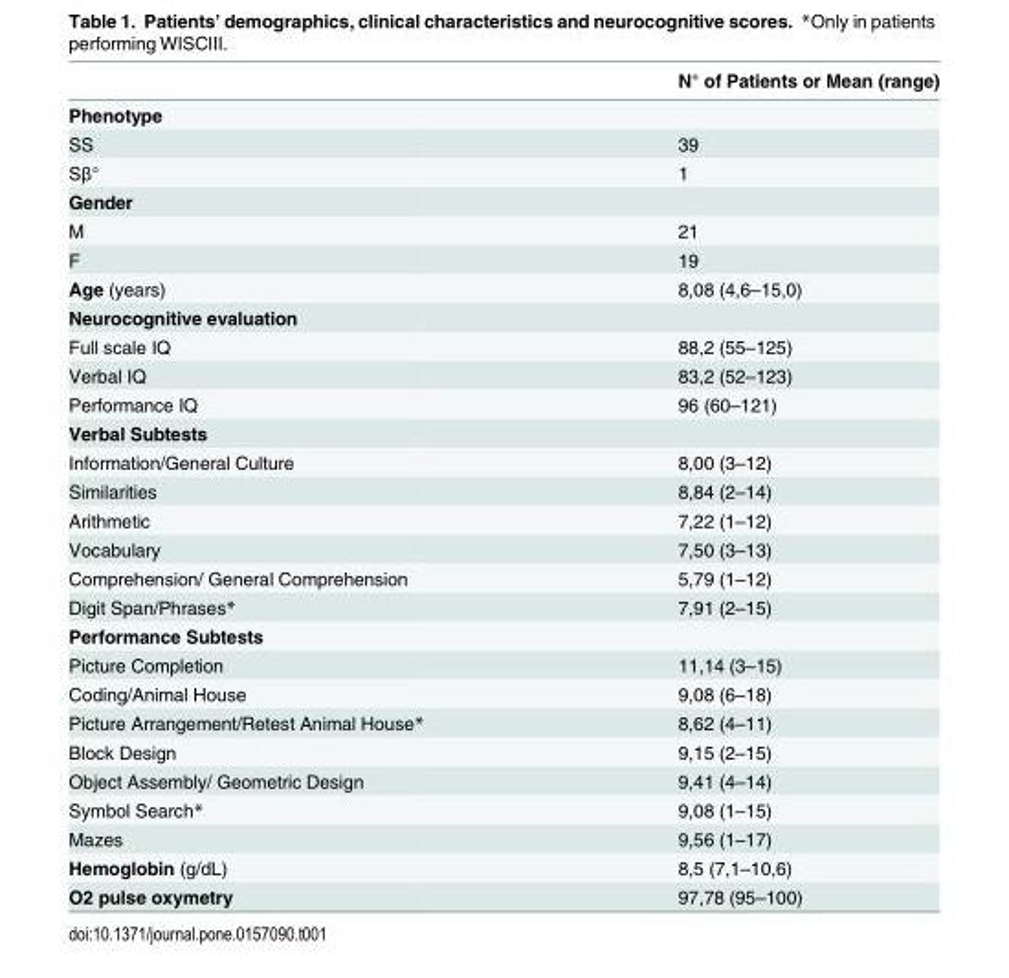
<table><thead><tr><td></td><td>N° of Patients or Mean (range)</td></tr></thead><tbody><tr><td colspan="2">Phenotype</td></tr><tr><td>SS</td><td>39</td></tr><tr><td>Sβ°</td><td>1</td></tr><tr><td colspan="2">Gender</td></tr><tr><td>M</td><td>21</td></tr><tr><td>F</td><td>19</td></tr><tr><td>Age (years)</td><td>8,08 (4,6–15,0)</td></tr><tr><td colspan="2">Neurocognitive evaluation</td></tr><tr><td>Full scale IQ</td><td>88,2 (55–125)</td></tr><tr><td>Verbal IQ</td><td>83,2 (52–123)</td></tr><tr><td>Performance IQ</td><td>96 (60–121)</td></tr><tr><td colspan="2">Verbal Subtests</td></tr><tr><td>Information/General Culture</td><td>8,00 (3–12)</td></tr><tr><td>Similarities</td><td>8,84 (2–14)</td></tr><tr><td>Arithmetic</td><td>7,22 (1–12)</td></tr><tr><td>Vocabulary</td><td>7,50 (3–13)</td></tr><tr><td>Comprehension/ General Comprehension</td><td>5,79 (1–12)</td></tr><tr><td>Digit Span/Phrases*</td><td>7,91 (2–15)</td></tr><tr><td colspan="2">Performance Subtests</td></tr><tr><td>Picture Completion</td><td>11,14 (3–15)</td></tr><tr><td>Coding/Animal House</td><td>9,08 (6–18)</td></tr><tr><td>Picture Arrangement/Retest Animal House*</td><td>8,62 (4–11)</td></tr><tr><td>Block Design</td><td>9,15 (2–15)</td></tr><tr><td>Object Assembly/ Geometric Design</td><td>9,41 (4–14)</td></tr><tr><td>Symbol Search*</td><td>9,08 (1–15)</td></tr><tr><td>Mazes</td><td>9,56 (1–17)</td></tr><tr><td>Hemoglobin (g/dL)</td><td>8,5 (7,1–10,6)</td></tr><tr><td>O2 pulse oxymetry</td><td>97,78 (95–100)</td></tr></tbody></table>